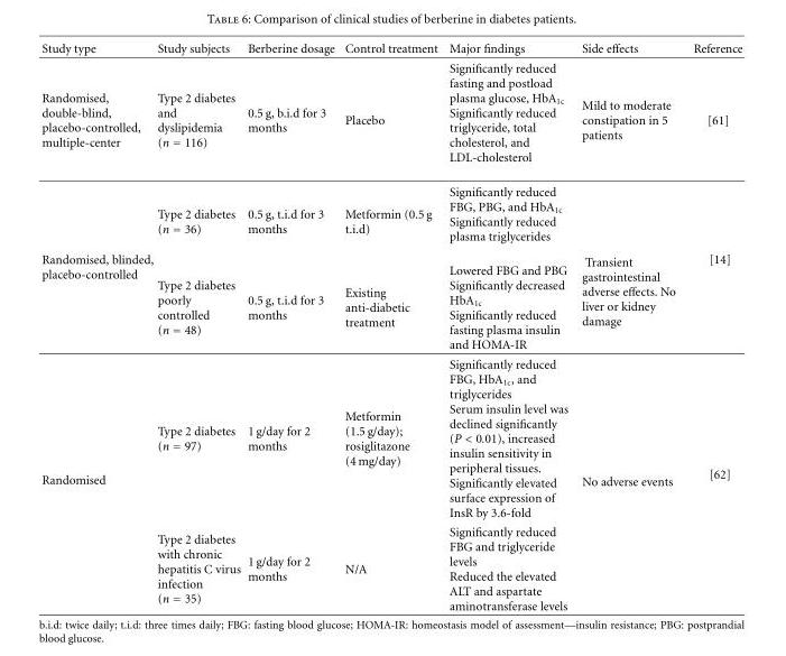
<table><thead><tr><td>Study type</td><td>Study subjects</td><td>Berberine dosage</td><td>Control treatment</td><td>Major findings</td><td>Side effects</td><td>Reference</td></tr></thead><tbody><tr><td>Randomised, double-blind, placebo-controlled, multiple-center</td><td>Type 2 diabetes and dyslipidemia (n = 116)</td><td>0.5 g, b.i.d for 3 months</td><td>Placebo</td><td>Significantly reduced fasting and postload plasma glucose, HbA<sub>1c</sub> Significantly reduced triglyceride, total cholesterol, and LDL-cholesterol</td><td>Mild to moderate constipation in 5 patients</td><td>[61]</td></tr><tr><td rowspan="2">Randomised, blinded, placebo-controlled</td><td>Type 2 diabetes (n = 36)</td><td>0.5 g, t.i.d for 3 months</td><td>Metformin (0.5 g t.i.d)</td><td>Significantly reduced FBG, PBG, and HbA<sub>1c</sub> Significantly reduced plasma triglycerides</td><td rowspan="2">Transient gastrointestinal adverse effects. No liver or kidney damage</td><td rowspan="2">[14]</td></tr><tr><td>Type 2 diabetes poorly controlled (n = 48)</td><td>0.5 g, t.i.d for 3 months</td><td>Existing anti-diabetic treatment</td><td>Lowered FBG and PBG Significantly decreased HbA<sub>1c</sub> Significantly reduced fasting plasma insulin and HOMA-IR</td></tr><tr><td rowspan="2">Randomised</td><td>Type 2 diabetes (n = 97)</td><td>1 g/day for 2 months</td><td>Metformin (1.5 g/day); rosiglitazone (4 mg/day)</td><td>Significantly reduced FBG, HbA1c, and triglycerides Serum insulin level was declined significantly (P &lt; 0.01), increased insulin sensitivity in peripheral tissues. Significantly elevated surface expression of InsR by 3.6-fold</td><td rowspan="2">No adverse events</td><td rowspan="2">[62]</td></tr><tr><td>Type 2 diabetes with chronic hepatitis C virus infection (n = 35)</td><td>1 g/day for 2 months</td><td>N/A</td><td>Significantly reduced FBG and triglyceride levels Reduced the elevated ALT and aspartate aminotransferase levels</td></tr></tbody></table>